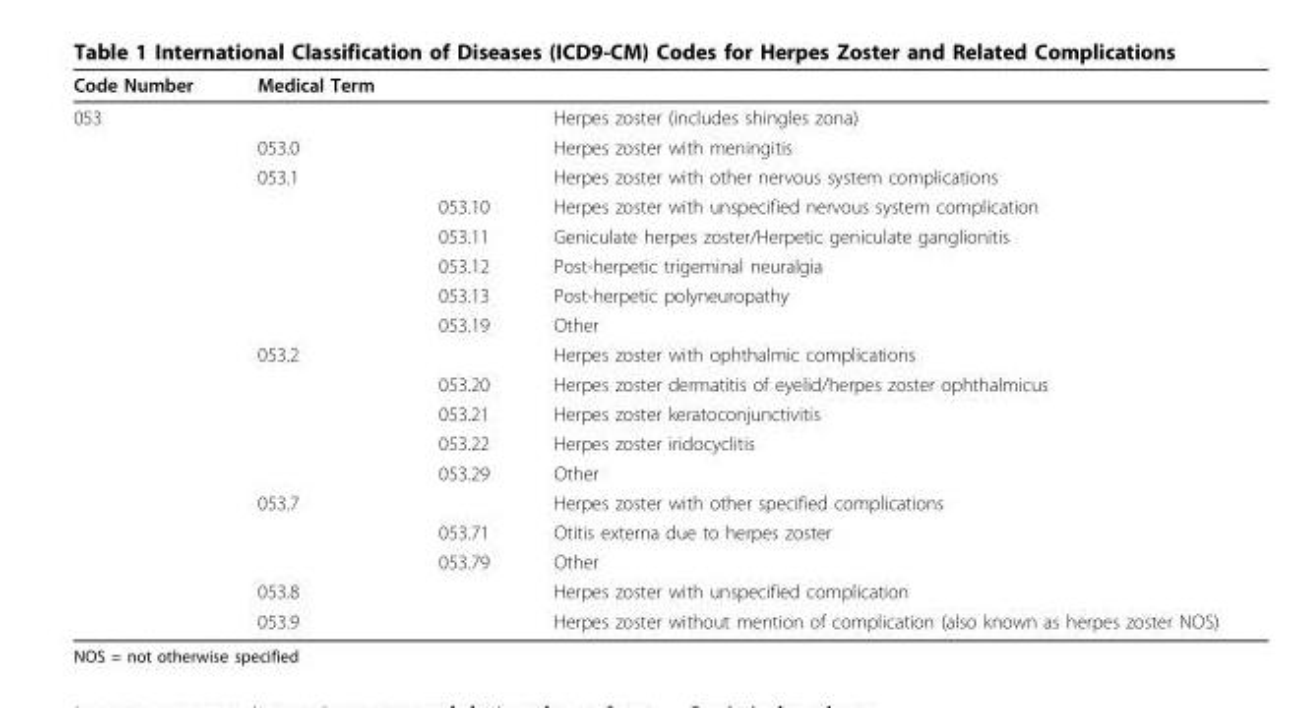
<table><thead><tr><td>Code Number</td><td>Medical Term</td><td></td><td></td></tr></thead><tbody><tr><td rowspan="18">053</td><td></td><td></td><td>Herpes zoster (includes shingles zona)</td></tr><tr><td>053.0</td><td></td><td>Herpes zoster with meningitis</td></tr><tr><td>053.1</td><td></td><td>Herpes zoster with other nervous system complications</td></tr><tr><td></td><td>053.10</td><td>Herpes zoster with unspecified nervous system complication</td></tr><tr><td></td><td>053.11</td><td>Geniculate herpes zoster/Herpetic geniculate ganglionitis</td></tr><tr><td></td><td>053.12</td><td>Post-herpetic trigeminal neuralgia</td></tr><tr><td></td><td>053.13</td><td>Post-herpetic polyneuropathy</td></tr><tr><td></td><td>053.19</td><td>Other</td></tr><tr><td>053.2</td><td></td><td>Herpes zoster with ophthalmic complications</td></tr><tr><td></td><td>053.20</td><td>Herpes zoster dermatitis of eyelid/herpes zoster ophthalmicus</td></tr><tr><td></td><td>053.21</td><td>Herpes zoster keratoconjunctivitis</td></tr><tr><td></td><td>053.22</td><td>Herpes zoster iridocyclitis</td></tr><tr><td></td><td>053.29</td><td>Other</td></tr><tr><td>053.7</td><td></td><td>Herpes zoster with other specified complications</td></tr><tr><td></td><td>053.71</td><td>Otitis externa due to herpes zoster</td></tr><tr><td></td><td>053.79</td><td>Other</td></tr><tr><td>053.8</td><td></td><td>Herpes zoster with unspecified complication</td></tr><tr><td>053.9</td><td></td><td>Herpes zoster without mention of complication (also known as herpes zoster NOS)</td></tr></tbody></table>